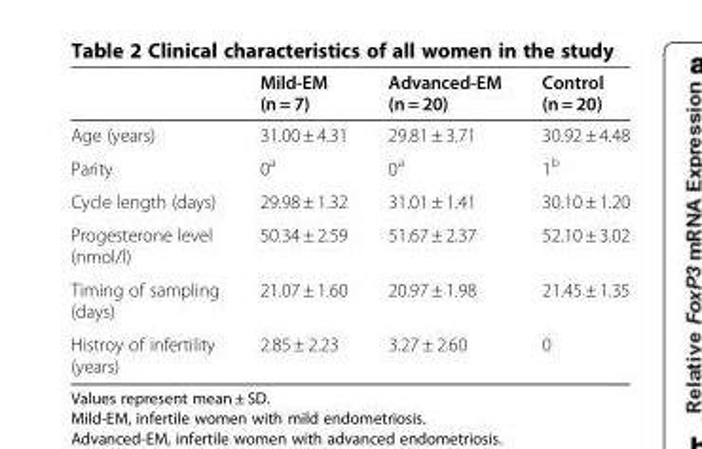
<table><thead><tr><td></td><td>Mild-EM (n = 7)</td><td>Advanced-EM (n = 20)</td><td>Control (n = 20)</td></tr></thead><tbody><tr><td>Age (years)</td><td>31.00 ± 4.31</td><td>29.81 ± 3.71</td><td>30.92 ± 4.48</td></tr><tr><td>Parity</td><td>0<sup>a</sup></td><td>0<sup>a</sup></td><td>1<sup>b</sup></td></tr><tr><td>Cycle length (days)</td><td>29.98 ± 1.32</td><td>31.01 ± 1.41</td><td>30.10 ± 1.20</td></tr><tr><td>Progesterone level (nmol/l)</td><td>50.34 ± 2.59</td><td>51.67 ± 2.37</td><td>52.10 ± 3.02</td></tr><tr><td>Timing of sampling (days)</td><td>21.07 ± 1.60</td><td>20.97 ± 1.98</td><td>21.45 ± 1.35</td></tr><tr><td>Histroy of infertility (years)</td><td>2.85 ± 2.23</td><td>3.27 ± 2.60</td><td>0</td></tr></tbody></table>